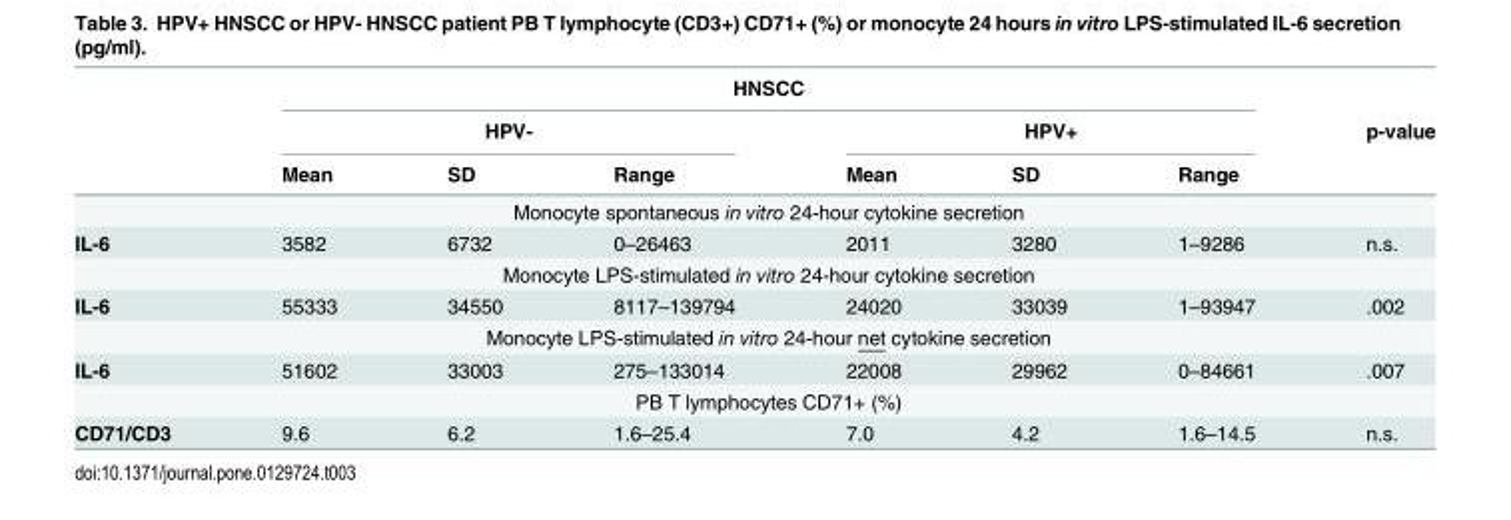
<table><thead><tr><td rowspan="3"></td><td colspan="6">HNSCC</td><td rowspan="3">p-value</td></tr><tr><td colspan="3">HPV-</td><td colspan="3">HPV+</td></tr><tr><td>Mean</td><td>SD</td><td>Range</td><td>Mean</td><td>SD</td><td>Range</td></tr></thead><tbody><tr><td></td><td colspan="6">Monocyte spontaneous in vitro 24-hour cytokine secretion</td><td></td></tr><tr><td rowspan="2">IL-6</td><td>3582</td><td>6732</td><td>0–26463</td><td>2011</td><td>3280</td><td>1–9286</td><td>n.s.</td></tr><tr><td colspan="6">Monocyte LPS-stimulated in vitro 24-hour cytokine secretion</td><td></td></tr><tr><td rowspan="2">IL-6</td><td>55333</td><td>34550</td><td>8117–139794</td><td>24020</td><td>33039</td><td>1–93947</td><td>.002</td></tr><tr><td colspan="6">Monocyte LPS-stimulated in vitro 24-hour net cytokine secretion</td><td></td></tr><tr><td rowspan="2">IL-6</td><td>51602</td><td>33003</td><td>275–133014</td><td>22008</td><td>29962</td><td>0–84661</td><td>.007</td></tr><tr><td colspan="6">PB T lymphocytes CD71+ (%)</td><td></td></tr><tr><td>CD71/CD3</td><td>9.6</td><td>6.2</td><td>1.6–25.4</td><td>7.0</td><td>4.2</td><td>1.6–14.5</td><td>n.s.</td></tr></tbody></table>